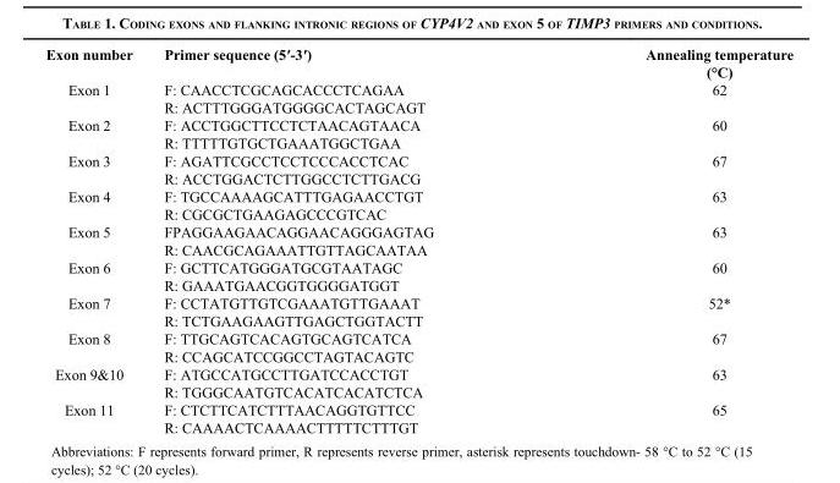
<table><thead><tr><td>Exon number</td><td>Primer sequence (5′-3′)</td><td>Annealing temperature (°C)</td></tr></thead><tbody><tr><td rowspan="2">Exon 1</td><td>F: CAACCTCGCAGCACCCTCAGAA</td><td>62</td></tr><tr><td>R: ACTTTGGGATGGGGCACTAGCAGT</td><td></td></tr><tr><td rowspan="2">Exon 2</td><td>F: ACCTGGCTTCCTCTAACAGTAACA</td><td>60</td></tr><tr><td>R: TTTTTGTGCTGAAATGGCTGAA</td><td></td></tr><tr><td rowspan="2">Exon 3</td><td>F: AGATTCGCCTCCTCCCACCTCAC</td><td>67</td></tr><tr><td>R: ACCTGGACTCTTGGCCTCTTGACG</td><td></td></tr><tr><td rowspan="2">Exon 4</td><td>F: TGCCAAAAGCATTTGAGAACCTGT</td><td>63</td></tr><tr><td>R: CGCGCTGAAGAGCCCGTCAC</td><td></td></tr><tr><td rowspan="2">Exon 5</td><td>FPAGGAAGAACAGGAACAGGGAGTAG</td><td>63</td></tr><tr><td>R: CAACGCAGAAATTGTTAGCAATAA</td><td></td></tr><tr><td rowspan="2">Exon 6</td><td>F: GCTTCATGGGATGCGTAATAGC</td><td>60</td></tr><tr><td>R: GAAATGAACGGTGGGGATGGT</td><td></td></tr><tr><td rowspan="2">Exon 7</td><td>F: CCTATGTTGTCGAAATGTTGAAAT</td><td>52*</td></tr><tr><td>R: TCTGAAGAAGTTGAGCTGGTACTT</td><td></td></tr><tr><td rowspan="2">Exon 8</td><td>F: TTGCAGTCACAGTGCAGTCATCA</td><td>67</td></tr><tr><td>R: CCAGCATCCGGCCTAGTACAGTC</td><td></td></tr><tr><td rowspan="2">Exon 9&amp;10</td><td>F: ATGCCATGCCTTGATCCACCTGT</td><td>63</td></tr><tr><td>R: TGGGCAATGTCACATCACATCTCA</td><td></td></tr><tr><td rowspan="2">Exon 11</td><td>F: CTCTTCATCTTTAACAGGTGTTCC</td><td>65</td></tr><tr><td>R: CAAAACTCAAAACTTTTTCTTTGT</td><td></td></tr></tbody></table>